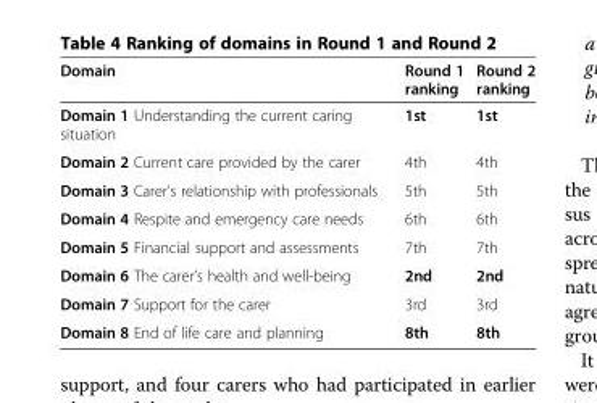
<table><thead><tr><td>Domain</td><td>Round 1 ranking</td><td>Round 2 ranking</td></tr></thead><tbody><tr><td>Domain 1 Understanding the current caring situation</td><td>1st</td><td>1st</td></tr><tr><td>Domain 2 Current care provided by the carer</td><td>4th</td><td>4th</td></tr><tr><td>Domain 3 Carer’s relationship with professionals</td><td>5th</td><td>5th</td></tr><tr><td>Domain 4 Respite and emergency care needs</td><td>6th</td><td>6th</td></tr><tr><td>Domain 5 Financial support and assessments</td><td>7th</td><td>7th</td></tr><tr><td>Domain 6 The carer’s health and well-being</td><td>2nd</td><td>2nd</td></tr><tr><td>Domain 7 Support for the carer</td><td>3rd</td><td>3rd</td></tr><tr><td>Domain 8 End of life care and planning</td><td>8th</td><td>8th</td></tr></tbody></table>